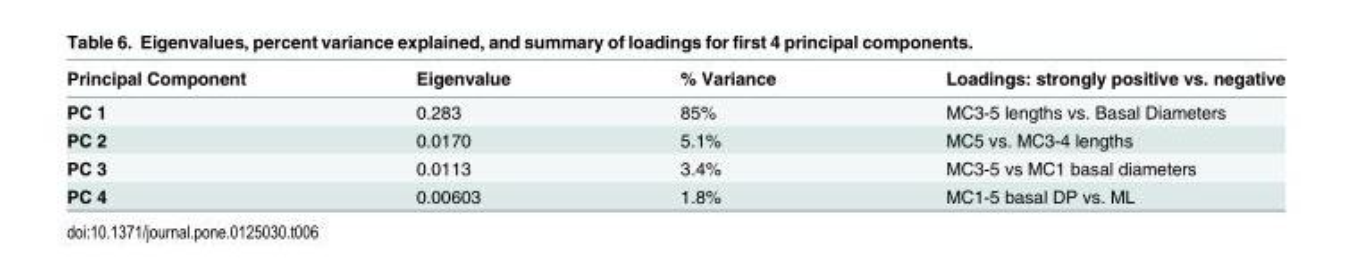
<table><thead><tr><td>Principal Component</td><td>Eigenvalue</td><td>% Variance</td><td>Loadings: strongly positive vs. negative</td></tr></thead><tbody><tr><td>PC 1</td><td>0.283</td><td>85%</td><td>MC3-5 lengths vs. Basal Diameters</td></tr><tr><td>PC 2</td><td>0.0170</td><td>5.1%</td><td>MC5 vs. MC3-4 lengths</td></tr><tr><td>PC 3</td><td>0.0113</td><td>3.4%</td><td>MC3-5 vs MC1 basal diameters</td></tr><tr><td>PC 4</td><td>0.00603</td><td>1.8%</td><td>MC1-5 basal DP vs. ML</td></tr></tbody></table>